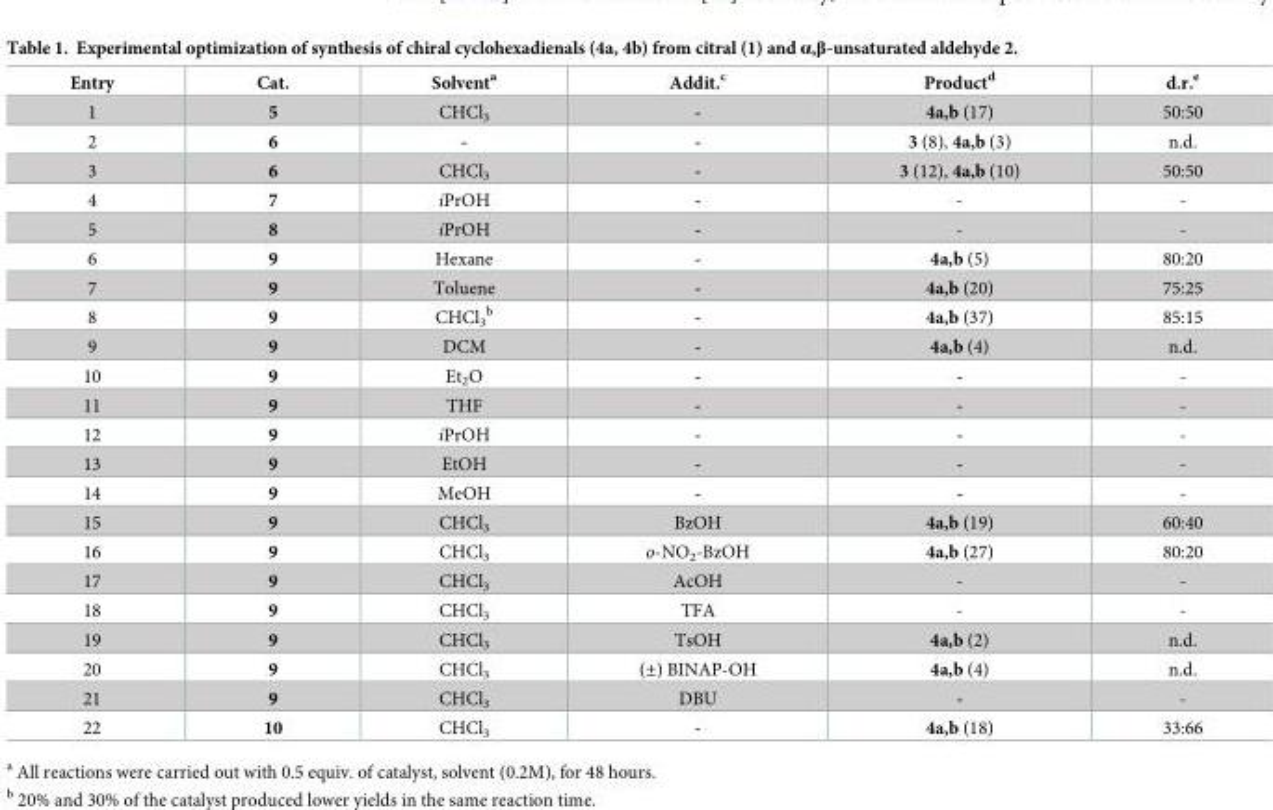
<table><thead><tr><td>Entry</td><td>Cat.</td><td>Solvent<sup>a</sup></td><td>Addit.<sup>c</sup></td><td>Product<sup>d</sup></td><td>d.r.<sup>e</sup></td></tr></thead><tbody><tr><td>1</td><td>5</td><td>CHCl<sub>3</sub></td><td>-</td><td>4a,b (17)</td><td>50:50</td></tr><tr><td>2</td><td>6</td><td>-</td><td>-</td><td>3 (8), 4a,b (3)</td><td>n.d.</td></tr><tr><td>3</td><td>6</td><td>CHCl<sub>3</sub></td><td>-</td><td>3 (12), 4a,b (10)</td><td>50:50</td></tr><tr><td>4</td><td>7</td><td>iPrOH</td><td>-</td><td>-</td><td>-</td></tr><tr><td>5</td><td>8</td><td>iPrOH</td><td>-</td><td>-</td><td>-</td></tr><tr><td>6</td><td>9</td><td>Hexane</td><td>-</td><td>4a,b (5)</td><td>80:20</td></tr><tr><td>7</td><td>9</td><td>Toluene</td><td>-</td><td>4a,b (20)</td><td>75:25</td></tr><tr><td>8</td><td>9</td><td>CHCl<sub>3</sub> <sup>b</sup></td><td>-</td><td>4a,b (37)</td><td>85:15</td></tr><tr><td>9</td><td>9</td><td>DCM</td><td>-</td><td>4a,b (4)</td><td>n.d.</td></tr><tr><td>10</td><td>9</td><td>Et<sub>2</sub>O</td><td>-</td><td>-</td><td>-</td></tr><tr><td>11</td><td>9</td><td>THF</td><td>-</td><td>-</td><td>-</td></tr><tr><td>12</td><td>9</td><td>iPrOH</td><td>-</td><td>-</td><td>-</td></tr><tr><td>13</td><td>9</td><td>EtOH</td><td>-</td><td>-</td><td>-</td></tr><tr><td>14</td><td>9</td><td>MeOH</td><td>-</td><td>-</td><td>-</td></tr><tr><td>15</td><td>9</td><td>CHCl<sub>3</sub></td><td>BzOH</td><td>4a,b (19)</td><td>60:40</td></tr><tr><td>16</td><td>9</td><td>CHCl<sub>3</sub></td><td>o-NO<sub>2</sub>-BzOH</td><td>4a,b (27)</td><td>80:20</td></tr><tr><td>17</td><td>9</td><td>CHCl<sub>3</sub></td><td>AcOH</td><td>-</td><td>-</td></tr><tr><td>18</td><td>9</td><td>CHCl<sub>3</sub></td><td>TFA</td><td>-</td><td>-</td></tr><tr><td>19</td><td>9</td><td>CHCl<sub>3</sub></td><td>TsOH</td><td>4a,b (2)</td><td>n.d.</td></tr><tr><td>20</td><td>9</td><td>CHCl<sub>3</sub></td><td>(±) BINAP-OH</td><td>4a,b (4)</td><td>n.d.</td></tr><tr><td>21</td><td>9</td><td>CHCl<sub>3</sub></td><td>DBU</td><td>-</td><td>-</td></tr><tr><td>22</td><td>10</td><td>CHCl<sub>3</sub></td><td>-</td><td>4a,b (18)</td><td>33:66</td></tr></tbody></table>